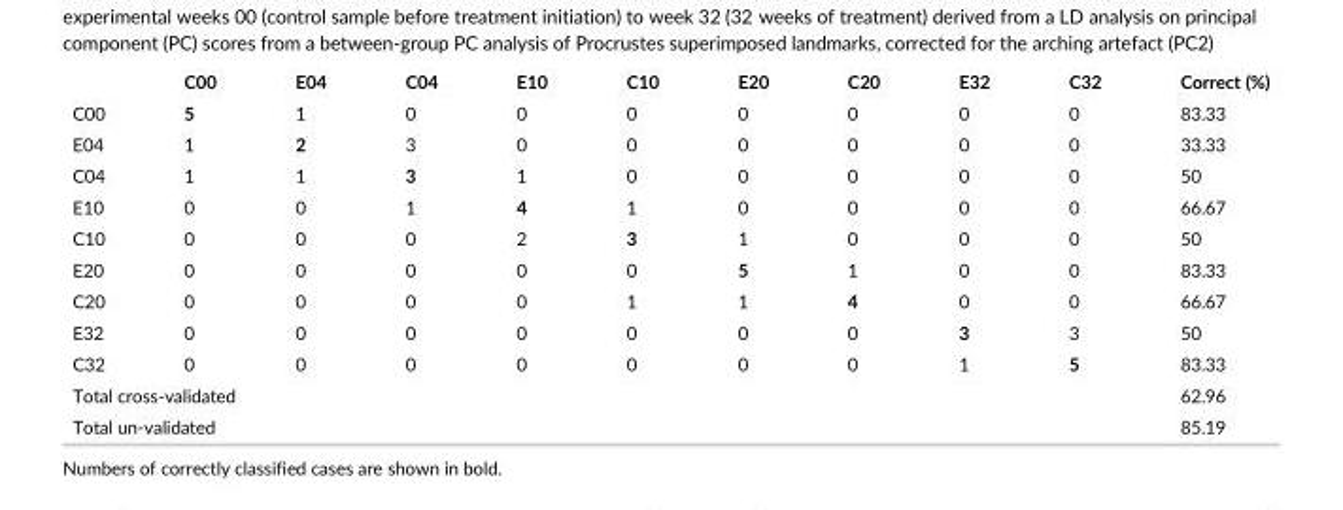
<table><thead><tr><td></td><td>C00</td><td>E04</td><td>C04</td><td>E10</td><td>C10</td><td>E20</td><td>C20</td><td>E32</td><td>C32</td><td>Correct (%)</td></tr></thead><tbody><tr><td>C00</td><td>5</td><td>1</td><td>0</td><td>0</td><td>0</td><td>0</td><td>0</td><td>0</td><td>0</td><td>83.33</td></tr><tr><td>E04</td><td>1</td><td>2</td><td>3</td><td>0</td><td>0</td><td>0</td><td>0</td><td>0</td><td>0</td><td>33.33</td></tr><tr><td>C04</td><td>1</td><td>1</td><td>3</td><td>1</td><td>0</td><td>0</td><td>0</td><td>0</td><td>0</td><td>50</td></tr><tr><td>E10</td><td>0</td><td>0</td><td>1</td><td>4</td><td>1</td><td>0</td><td>0</td><td>0</td><td>0</td><td>66.67</td></tr><tr><td>C10</td><td>0</td><td>0</td><td>0</td><td>2</td><td>3</td><td>1</td><td>0</td><td>0</td><td>0</td><td>50</td></tr><tr><td>E20</td><td>0</td><td>0</td><td>0</td><td>0</td><td>0</td><td>5</td><td>1</td><td>0</td><td>0</td><td>83.33</td></tr><tr><td>C20</td><td>0</td><td>0</td><td>0</td><td>0</td><td>1</td><td>1</td><td>4</td><td>0</td><td>0</td><td>66.67</td></tr><tr><td>E32</td><td>0</td><td>0</td><td>0</td><td>0</td><td>0</td><td>0</td><td>0</td><td>3</td><td>3</td><td>50</td></tr><tr><td>C32</td><td>0</td><td>0</td><td>0</td><td>0</td><td>0</td><td>0</td><td>0</td><td>1</td><td>5</td><td>83.33</td></tr><tr><td colspan="10">Total cross-validated</td><td>62.96</td></tr><tr><td colspan="10">Total un-validated</td><td>85.19</td></tr></tbody></table>